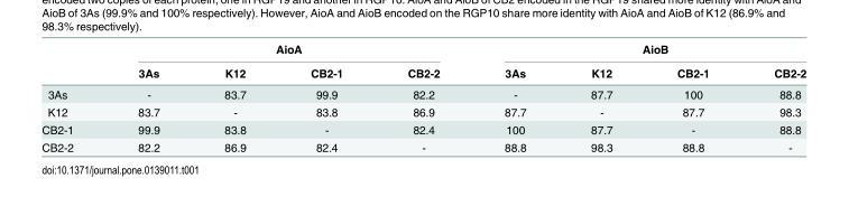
<table><thead><tr><td rowspan="2"></td><td colspan="4">AioA</td><td colspan="4">AioB</td></tr><tr><td>3As</td><td>K12</td><td>CB2-1</td><td>CB2-2</td><td>3As</td><td>K12</td><td>CB2-1</td><td>CB2-2</td></tr></thead><tbody><tr><td>3As</td><td>-</td><td>83.7</td><td>99.9</td><td>82.2</td><td>-</td><td>87.7</td><td>100</td><td>88.8</td></tr><tr><td>K12</td><td>83.7</td><td>-</td><td>83.8</td><td>86.9</td><td>87.7</td><td>-</td><td>87.7</td><td>98.3</td></tr><tr><td>CB2-1</td><td>99.9</td><td>83.8</td><td>-</td><td>82.4</td><td>100</td><td>87.7</td><td>-</td><td>88.8</td></tr><tr><td>CB2-2</td><td>82.2</td><td>86.9</td><td>82.4</td><td>-</td><td>88.8</td><td>98.3</td><td>88.8</td><td>-</td></tr></tbody></table>